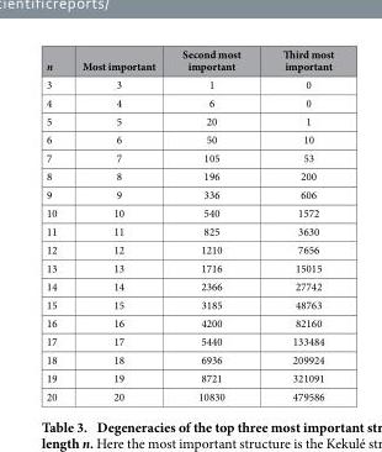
<table><thead><tr><td>n</td><td>Most important</td><td>Second most important</td><td>Third most important</td></tr></thead><tbody><tr><td>3</td><td>3</td><td>1</td><td>0</td></tr><tr><td>4</td><td>4</td><td>6</td><td>0</td></tr><tr><td>5</td><td>5</td><td>20</td><td>1</td></tr><tr><td>6</td><td>6</td><td>50</td><td>10</td></tr><tr><td>7</td><td>7</td><td>105</td><td>53</td></tr><tr><td>8</td><td>8</td><td>196</td><td>200</td></tr><tr><td>9</td><td>9</td><td>336</td><td>606</td></tr><tr><td>10</td><td>10</td><td>540</td><td>1572</td></tr><tr><td>11</td><td>11</td><td>825</td><td>3630</td></tr><tr><td>12</td><td>12</td><td>1210</td><td>7656</td></tr><tr><td>13</td><td>13</td><td>1716</td><td>15015</td></tr><tr><td>14</td><td>14</td><td>2366</td><td>27742</td></tr><tr><td>15</td><td>15</td><td>3185</td><td>48763</td></tr><tr><td>16</td><td>16</td><td>4200</td><td>82160</td></tr><tr><td>17</td><td>17</td><td>5440</td><td>133484</td></tr><tr><td>18</td><td>18</td><td>6936</td><td>209924</td></tr><tr><td>19</td><td>19</td><td>8721</td><td>321091</td></tr><tr><td>20</td><td>20</td><td>10830</td><td>479586</td></tr></tbody></table>